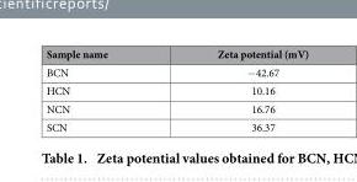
<table><thead><tr><td>Sample name</td><td>Zeta potential (mV)</td></tr></thead><tbody><tr><td>BCN</td><td>− 42.67</td></tr><tr><td>HCN</td><td>10.16</td></tr><tr><td>NCN</td><td>16.76</td></tr><tr><td>SCN</td><td>36.37</td></tr></tbody></table>